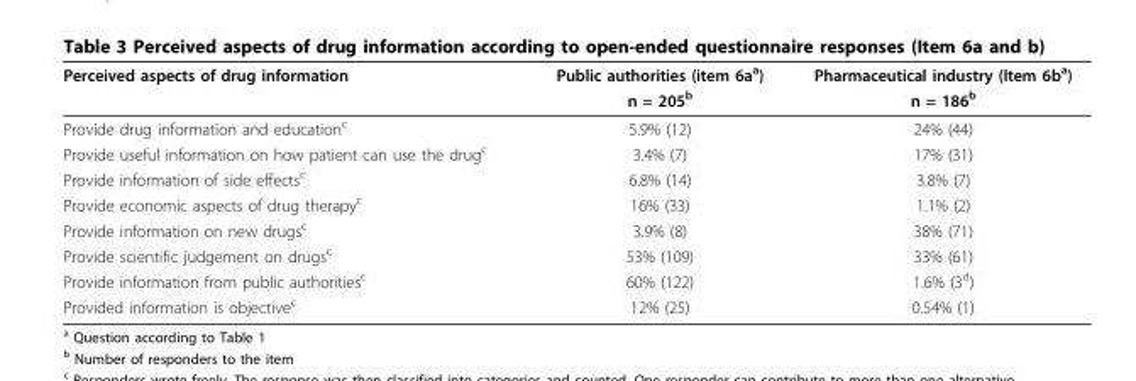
<table><thead><tr><td rowspan="2">Perceived aspects of drug information</td><td rowspan="2">Public authorities (item 6a<sup>a</sup>) n = 205<sup>b</sup></td><td rowspan="2">Pharmaceutical industry (Item 6b<sup>a</sup>) n = 186<sup>b</sup></td></tr><tr></tr></thead><tbody><tr><td>Provide drug information and education<sup>c</sup></td><td>5.9% (12)</td><td>24% (44)</td></tr><tr><td>Provide useful information on how patient can use the drug<sup>c</sup></td><td>3.4% (7)</td><td>17% (31)</td></tr><tr><td>Provide information of side effects<sup>c</sup></td><td>6.8% (14)</td><td>3.8% (7)</td></tr><tr><td>Provide economic aspects of drug therapy<sup>c</sup></td><td>16% (33)</td><td>1.1% (2)</td></tr><tr><td>Provide information on new drugs<sup>c</sup></td><td>3.9% (8)</td><td>38% (71)</td></tr><tr><td>Provide scientific judgement on drugs<sup>c</sup></td><td>53% (109)</td><td>33% (61)</td></tr><tr><td>Provide information from public authorities<sup>c</sup></td><td>60% (122)</td><td>1.6% (3<sup>d</sup>)</td></tr><tr><td>Provided information is objective<sup>c</sup></td><td>12% (25)</td><td>0.54% (1)</td></tr></tbody></table>